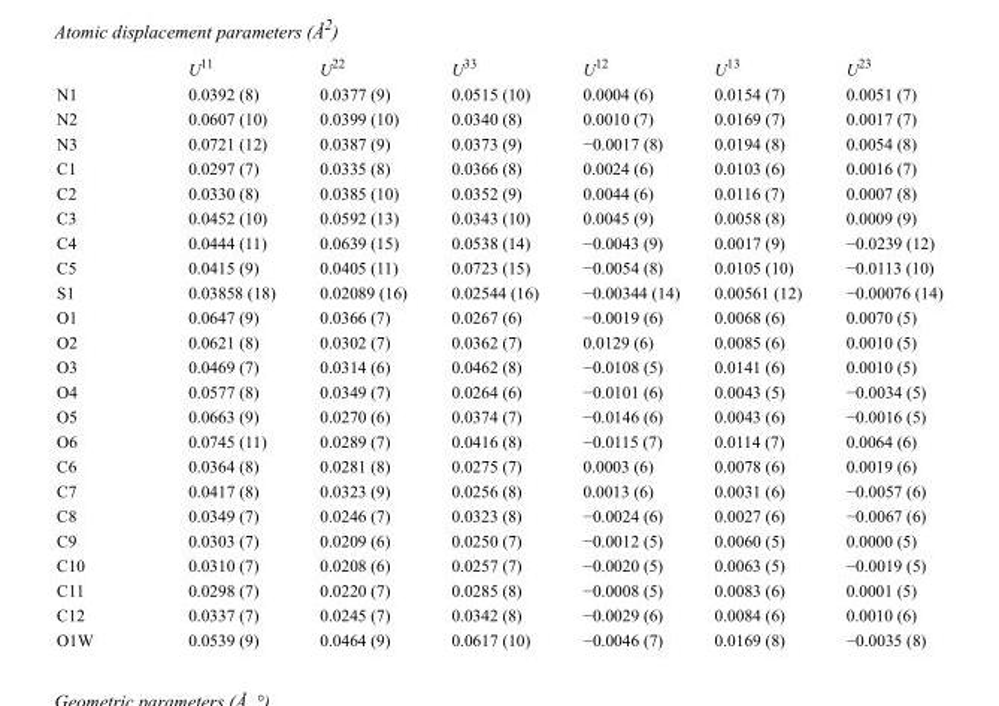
<table><thead><tr><td></td><td>U<sup>11</sup></td><td>U<sup>22</sup></td><td>U<sup>33</sup></td><td>U<sup>12</sup></td><td>U<sup>13</sup></td><td>U<sup>23</sup></td></tr></thead><tbody><tr><td>N1</td><td>0.0392 (8)</td><td>0.0377 (9)</td><td>0.0515 (10)</td><td>0.0004 (6)</td><td>0.0154 (7)</td><td>0.0051 (7)</td></tr><tr><td>N2</td><td>0.0607 (10)</td><td>0.0399 (10)</td><td>0.0340 (8)</td><td>0.0010 (7)</td><td>0.0169 (7)</td><td>0.0017 (7)</td></tr><tr><td>N3</td><td>0.0721 (12)</td><td>0.0387 (9)</td><td>0.0373 (9)</td><td>−0.0017 (8)</td><td>0.0194 (8)</td><td>0.0054 (8)</td></tr><tr><td>C1</td><td>0.0297 (7)</td><td>0.0335 (8)</td><td>0.0366 (8)</td><td>0.0024 (6)</td><td>0.0103 (6)</td><td>0.0016 (7)</td></tr><tr><td>C2</td><td>0.0330 (8)</td><td>0.0385 (10)</td><td>0.0352 (9)</td><td>0.0044 (6)</td><td>0.0116 (7)</td><td>0.0007 (8)</td></tr><tr><td>C3</td><td>0.0452 (10)</td><td>0.0592 (13)</td><td>0.0343 (10)</td><td>0.0045 (9)</td><td>0.0058 (8)</td><td>0.0009 (9)</td></tr><tr><td>C4</td><td>0.0444 (11)</td><td>0.0639 (15)</td><td>0.0538 (14)</td><td>−0.0043 (9)</td><td>0.0017 (9)</td><td>−0.0239 (12)</td></tr><tr><td>C5</td><td>0.0415 (9)</td><td>0.0405 (11)</td><td>0.0723 (15)</td><td>−0.0054 (8)</td><td>0.0105 (10)</td><td>−0.0113 (10)</td></tr><tr><td>S1</td><td>0.03858 (18)</td><td>0.02089 (16)</td><td>0.02544 (16)</td><td>−0.00344 (14)</td><td>0.00561 (12)</td><td>−0.00076 (14)</td></tr><tr><td>O1</td><td>0.0647 (9)</td><td>0.0366 (7)</td><td>0.0267 (6)</td><td>−0.0019 (6)</td><td>0.0068 (6)</td><td>0.0070 (5)</td></tr><tr><td>O2</td><td>0.0621 (8)</td><td>0.0302 (7)</td><td>0.0362 (7)</td><td>0.0129 (6)</td><td>0.0085 (6)</td><td>0.0010 (5)</td></tr><tr><td>O3</td><td>0.0469 (7)</td><td>0.0314 (6)</td><td>0.0462 (8)</td><td>−0.0108 (5)</td><td>0.0141 (6)</td><td>0.0010 (5)</td></tr><tr><td>O4</td><td>0.0577 (8)</td><td>0.0349 (7)</td><td>0.0264 (6)</td><td>−0.0101 (6)</td><td>0.0043 (5)</td><td>−0.0034 (5)</td></tr><tr><td>O5</td><td>0.0663 (9)</td><td>0.0270 (6)</td><td>0.0374 (7)</td><td>−0.0146 (6)</td><td>0.0043 (6)</td><td>−0.0016 (5)</td></tr><tr><td>O6</td><td>0.0745 (11)</td><td>0.0289 (7)</td><td>0.0416 (8)</td><td>−0.0115 (7)</td><td>0.0114 (7)</td><td>0.0064 (6)</td></tr><tr><td>C6</td><td>0.0364 (8)</td><td>0.0281 (8)</td><td>0.0275 (7)</td><td>0.0003 (6)</td><td>0.0078 (6)</td><td>0.0019 (6)</td></tr><tr><td>C7</td><td>0.0417 (8)</td><td>0.0323 (9)</td><td>0.0256 (8)</td><td>0.0013 (6)</td><td>0.0031 (6)</td><td>−0.0057 (6)</td></tr><tr><td>C8</td><td>0.0349 (7)</td><td>0.0246 (7)</td><td>0.0323 (8)</td><td>−0.0024 (6)</td><td>0.0027 (6)</td><td>−0.0067 (6)</td></tr><tr><td>C9</td><td>0.0303 (7)</td><td>0.0209 (6)</td><td>0.0250 (7)</td><td>−0.0012 (5)</td><td>0.0060 (5)</td><td>0.0000 (5)</td></tr><tr><td>C10</td><td>0.0310 (7)</td><td>0.0208 (6)</td><td>0.0257 (7)</td><td>−0.0020 (5)</td><td>0.0063 (5)</td><td>−0.0019 (5)</td></tr><tr><td>C11</td><td>0.0298 (7)</td><td>0.0220 (7)</td><td>0.0285 (8)</td><td>−0.0008 (5)</td><td>0.0083 (6)</td><td>0.0001 (5)</td></tr><tr><td>C12</td><td>0.0337 (7)</td><td>0.0245 (7)</td><td>0.0342 (8)</td><td>−0.0029 (6)</td><td>0.0084 (6)</td><td>0.0010 (6)</td></tr><tr><td>O1W</td><td>0.0539 (9)</td><td>0.0464 (9)</td><td>0.0617 (10)</td><td>−0.0046 (7)</td><td>0.0169 (8)</td><td>−0.0035 (8)</td></tr></tbody></table>